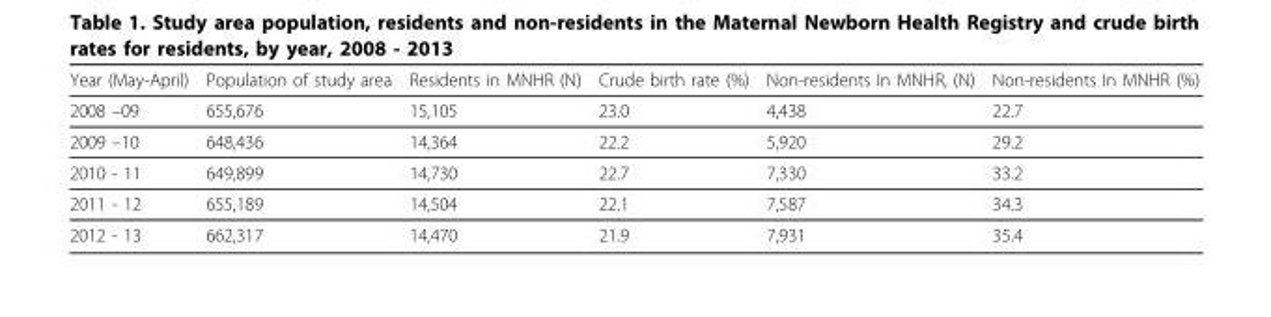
<table><thead><tr><td>Year (May-April)</td><td>Population of study area</td><td>Residents in MNHR (N)</td><td>Crude birth rate (%)</td><td>Non-residents In MNHR, (N)</td><td>Non-residents In MNHR (%)</td></tr></thead><tbody><tr><td>2008 –09</td><td>655,676</td><td>15,105</td><td>23.0</td><td>4,438</td><td>22.7</td></tr><tr><td>2009 –10</td><td>648,436</td><td>14,364</td><td>22.2</td><td>5,920</td><td>29.2</td></tr><tr><td>2010 - 11</td><td>649,899</td><td>14,730</td><td>22.7</td><td>7,330</td><td>33.2</td></tr><tr><td>2011 - 12</td><td>655,189</td><td>14,504</td><td>22.1</td><td>7,587</td><td>34.3</td></tr><tr><td>2012 - 13</td><td>662,317</td><td>14,470</td><td>21.9</td><td>7,931</td><td>35.4</td></tr></tbody></table>